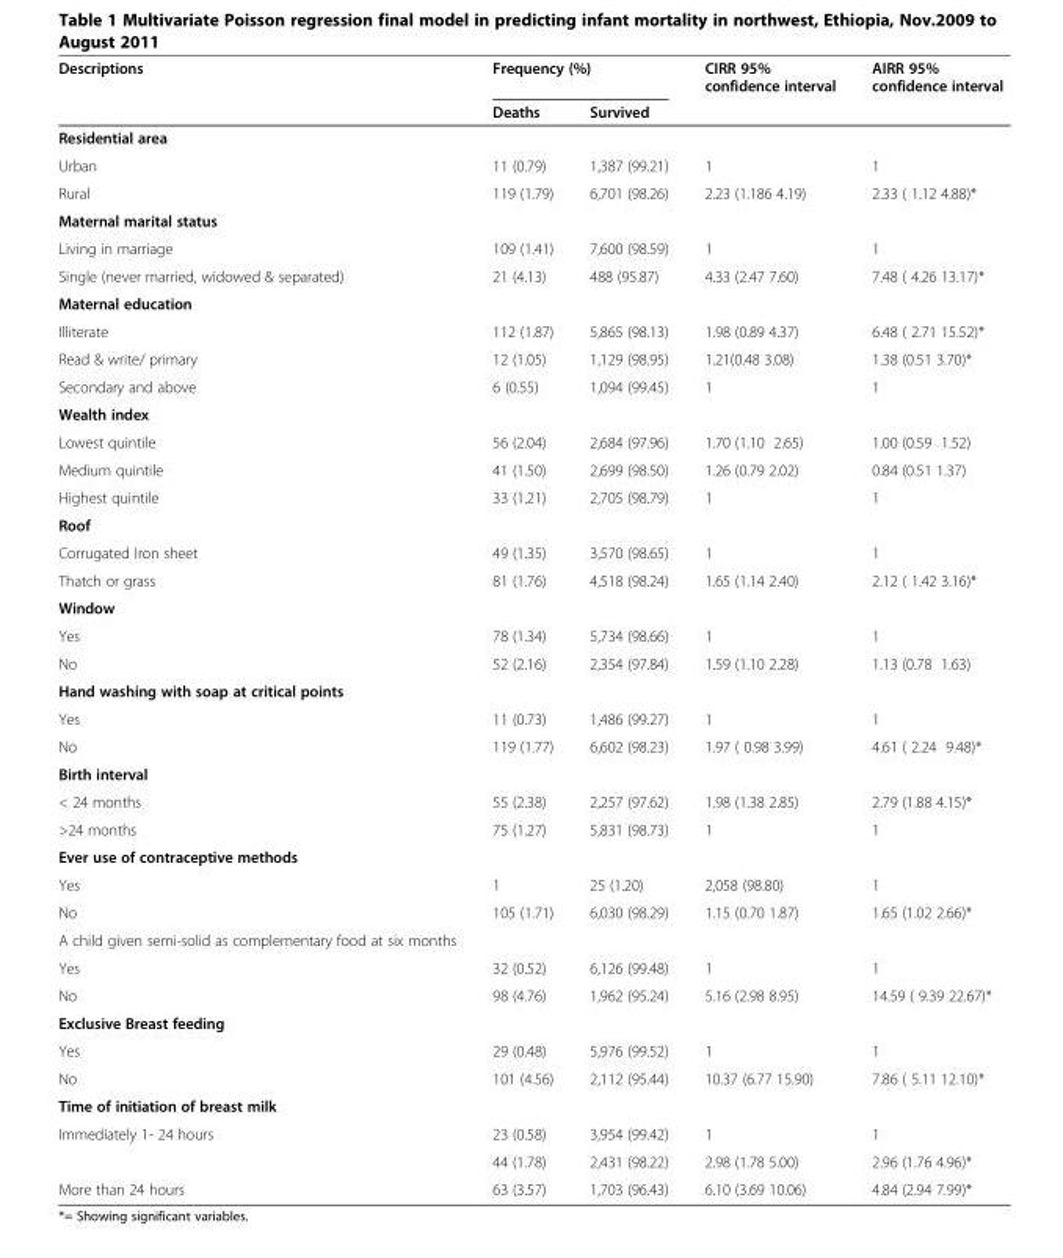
<table><thead><tr><td rowspan="2">Descriptions</td><td colspan="2">Frequency (%)</td><td rowspan="2">CIRR 95% confidence interval</td><td rowspan="2">AIRR 95% confidence interval</td></tr><tr><td>Deaths</td><td>Survived</td></tr></thead><tbody><tr><td colspan="5">Residential area</td></tr><tr><td>Urban</td><td>11 (0.79)</td><td>1,387 (99.21)</td><td>1</td><td>1</td></tr><tr><td>Rural</td><td>119 (1.79)</td><td>6,701 (98.26)</td><td>2.23 (1.186 4.19)</td><td>2.33 ( 1.12 4.88)*</td></tr><tr><td colspan="5">Maternal marital status</td></tr><tr><td>Living in marriage</td><td>109 (1.41)</td><td>7,600 (98.59)</td><td>1</td><td>1</td></tr><tr><td>Single (never married, widowed &amp; separated)</td><td>21 (4.13)</td><td>488 (95.87)</td><td>4.33 (2.47 7.60)</td><td>7.48 ( 4.26 13.17)*</td></tr><tr><td colspan="5">Maternal education</td></tr><tr><td>Illiterate</td><td>112 (1.87)</td><td>5,865 (98.13)</td><td>1.98 (0.89 4.37)</td><td>6.48 ( 2.71 15.52)*</td></tr><tr><td>Read &amp; write/ primary</td><td>12 (1.05)</td><td>1,129 (98.95)</td><td>1.21(0.48 3.08)</td><td>1.38 (0.51 3.70)*</td></tr><tr><td>Secondary and above</td><td>6 (0.55)</td><td>1,094 (99.45)</td><td>1</td><td>1</td></tr><tr><td colspan="5">Wealth index</td></tr><tr><td>Lowest quintile</td><td>56 (2.04)</td><td>2,684 (97.96)</td><td>1.70 (1.10 2.65)</td><td>1.00 (0.59 1.52)</td></tr><tr><td>Medium quintile</td><td>41 (1.50)</td><td>2,699 (98.50)</td><td>1.26 (0.79 2.02)</td><td>0.84 (0.51 1.37)</td></tr><tr><td>Highest quintile</td><td>33 (1.21)</td><td>2,705 (98.79)</td><td>1</td><td>1</td></tr><tr><td colspan="5">Roof</td></tr><tr><td>Corrugated Iron sheet</td><td>49 (1.35)</td><td>3,570 (98.65)</td><td>1</td><td>1</td></tr><tr><td>Thatch or grass</td><td>81 (1.76)</td><td>4,518 (98.24)</td><td>1.65 (1.14 2.40)</td><td>2.12 ( 1.42 3.16)*</td></tr><tr><td colspan="5">Window</td></tr><tr><td>Yes</td><td>78 (1.34)</td><td>5,734 (98.66)</td><td>1</td><td>1</td></tr><tr><td>No</td><td>52 (2.16)</td><td>2,354 (97.84)</td><td>1.59 (1.10 2.28)</td><td>1.13 (0.78 1.63)</td></tr><tr><td colspan="5">Hand washing with soap at critical points</td></tr><tr><td>Yes</td><td>11 (0.73)</td><td>1,486 (99.27)</td><td>1</td><td>1</td></tr><tr><td>No</td><td>119 (1.77)</td><td>6,602 (98.23)</td><td>1.97 ( 0.98 3.99)</td><td>4.61 ( 2.24 9.48)*</td></tr><tr><td colspan="5">Birth interval</td></tr><tr><td>&lt; 24 months</td><td>55 (2.38)</td><td>2,257 (97.62)</td><td>1.98 (1.38 2.85)</td><td>2.79 (1.88 4.15)*</td></tr><tr><td>&gt;24 months</td><td>75 (1.27)</td><td>5,831 (98.73)</td><td>1</td><td>1</td></tr><tr><td colspan="5">Ever use of contraceptive methods</td></tr><tr><td>Yes</td><td>1</td><td>25 (1.20)</td><td>2,058 (98.80)</td><td>1</td></tr><tr><td>No</td><td>105 (1.71)</td><td>6,030 (98.29)</td><td>1.15 (0.70 1.87)</td><td>1.65 (1.02 2.66)*</td></tr><tr><td colspan="5">A child given semi-solid as complementary food at six months</td></tr><tr><td>Yes</td><td>32 (0.52)</td><td>6,126 (99.48)</td><td>1</td><td>1</td></tr><tr><td>No</td><td>98 (4.76)</td><td>1,962 (95.24)</td><td>5.16 (2.98 8.95)</td><td>14.59 ( 9.39 22.67)*</td></tr><tr><td colspan="5">Exclusive Breast feeding</td></tr><tr><td>Yes</td><td>29 (0.48)</td><td>5,976 (99.52)</td><td>1</td><td>1</td></tr><tr><td>No</td><td>101 (4.56)</td><td>2,112 (95.44)</td><td>10.37 (6.77 15.90)</td><td>7.86 ( 5.11 12.10)*</td></tr><tr><td colspan="5">Time of initiation of breast milk</td></tr><tr><td rowspan="2">Immediately 1- 24 hours</td><td>23 (0.58)</td><td>3,954 (99.42)</td><td>1</td><td>1</td></tr><tr><td>44 (1.78)</td><td>2,431 (98.22)</td><td>2.98 (1.78 5.00)</td><td>2.96 (1.76 4.96)*</td></tr><tr><td>More than 24 hours</td><td>63 (3.57)</td><td>1,703 (96.43)</td><td>6.10 (3.69 10.06)</td><td>4.84 (2.94 7.99)*</td></tr></tbody></table>